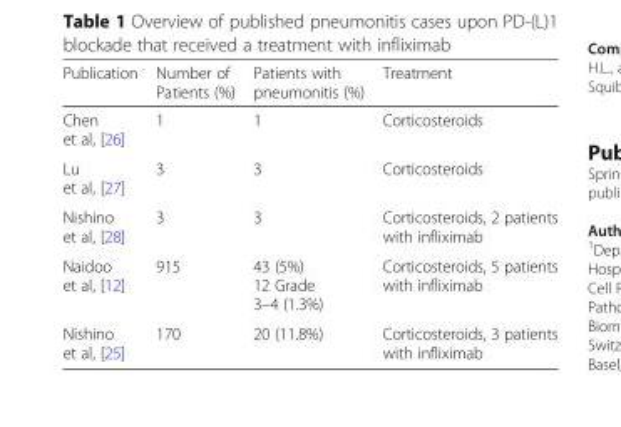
<table><thead><tr><td>Publication</td><td>Number of Patients (%)</td><td>Patients with pneumonitis (%)</td><td>Treatment</td></tr></thead><tbody><tr><td>Chen et al, [26]</td><td>1</td><td>1</td><td>Corticosteroids</td></tr><tr><td>Lu et al, [27]</td><td>3</td><td>3</td><td>Corticosteroids</td></tr><tr><td>Nishino et al, [28]</td><td>3</td><td>3</td><td>Corticosteroids, 2 patients with infliximab</td></tr><tr><td>Naidoo et al, [12]</td><td>915</td><td>43 (5%) 12 Grade 3–4 (1.3%)</td><td>Corticosteroids, 5 patients with infliximab</td></tr><tr><td>Nishino et al, [25]</td><td>170</td><td>20 (11.8%)</td><td>Corticosteroids, 3 patients with infliximab</td></tr></tbody></table>